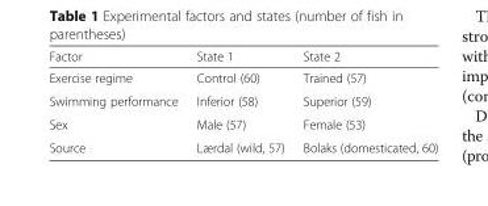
<table><thead><tr><td>Factor</td><td>State 1</td><td>State 2</td></tr></thead><tbody><tr><td>Exercise regime</td><td>Control (60)</td><td>Trained (57)</td></tr><tr><td>Swimming performance</td><td>Inferior (58)</td><td>Superior (59)</td></tr><tr><td>Sex</td><td>Male (57)</td><td>Female (53)</td></tr><tr><td>Source</td><td>Lærdal (wild, 57)</td><td>Bolaks (domesticated, 60)</td></tr></tbody></table>